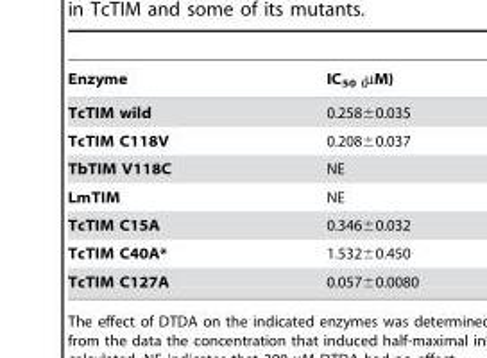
<table><thead><tr><td>Enzyme</td><td>IC<sub>50 (</sub>µM)</td></tr></thead><tbody><tr><td>TcTIM wild</td><td>0.258±0.035</td></tr><tr><td>TcTIM C118V</td><td>0.208±0.037</td></tr><tr><td>TbTIM V118C</td><td>NE</td></tr><tr><td>LmTIM</td><td>NE</td></tr><tr><td>TcTIM C15A</td><td>0.346±0.032</td></tr><tr><td>TcTIM C40A*</td><td>1.532±0.450</td></tr><tr><td>TcTIM C127A</td><td>0.057±0.0080</td></tr></tbody></table>